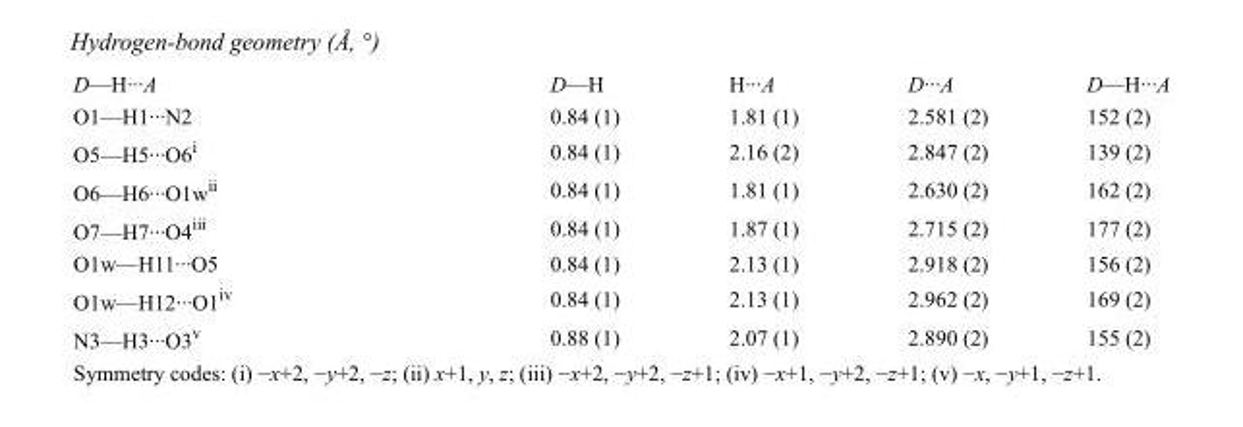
<table><tbody><tr><td>D—H···A</td><td>D—H</td><td>H···A</td><td>D···A</td><td>D—H···A</td></tr><tr><td>O1—H1···N2</td><td>0.84 (1)</td><td>1.81 (1)</td><td>2.581 (2)</td><td>152 (2)</td></tr><tr><td>O5—H5···O6<sup>i</sup></td><td>0.84 (1)</td><td>2.16 (2)</td><td>2.847 (2)</td><td>139 (2)</td></tr><tr><td>O6—H6···O1w<sup>ii</sup></td><td>0.84 (1)</td><td>1.81 (1)</td><td>2.630 (2)</td><td>162 (2)</td></tr><tr><td>O7—H7···O4<sup>iii</sup></td><td>0.84 (1)</td><td>1.87 (1)</td><td>2.715 (2)</td><td>177 (2)</td></tr><tr><td>O1w—H11···O5</td><td>0.84 (1)</td><td>2.13 (1)</td><td>2.918 (2)</td><td>156 (2)</td></tr><tr><td>O1w—H12···O1<sup>iv</sup></td><td>0.84 (1)</td><td>2.13 (1)</td><td>2.962 (2)</td><td>169 (2)</td></tr><tr><td>N3—H3···O3<sup>v</sup></td><td>0.88 (1)</td><td>2.07 (1)</td><td>2.890 (2)</td><td>155 (2)</td></tr></tbody></table>